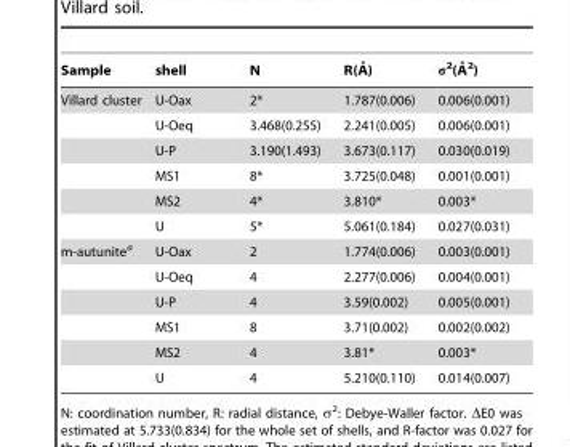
<table><thead><tr><td>Sample</td><td>shell</td><td>N</td><td>R(A˚ )</td><td>s2(A˚ 2)</td></tr></thead><tbody><tr><td rowspan="6">Villard cluster</td><td>U-Oax</td><td>2*</td><td>1.787(0.006)</td><td>0.006(0.001)</td></tr><tr><td>U-Oeq</td><td>3.468(0.255)</td><td>2.241(0.005)</td><td>0.006(0.001)</td></tr><tr><td>U-P</td><td>3.190(1.493)</td><td>3.673(0.117)</td><td>0.030(0.019)</td></tr><tr><td>MS1</td><td>8*</td><td>3.725(0.048)</td><td>0.001(0.001)</td></tr><tr><td>MS2</td><td>4*</td><td>3.810*</td><td>0.003*</td></tr><tr><td>U</td><td>5*</td><td>5.061(0.184)</td><td>0.027(0.031)</td></tr><tr><td rowspan="6">m-autunite<sup>a</sup></td><td>U-Oax</td><td>2</td><td>1.774(0.006)</td><td>0.003(0.001)</td></tr><tr><td>U-Oeq</td><td>4</td><td>2.277(0.006)</td><td>0.004(0.001)</td></tr><tr><td>U-P</td><td>4</td><td>3.59(0.002)</td><td>0.005(0.001)</td></tr><tr><td>MS1</td><td>8</td><td>3.71(0.002)</td><td>0.002(0.002)</td></tr><tr><td>MS2</td><td>4</td><td>3.81*</td><td>0.003*</td></tr><tr><td>U</td><td>4</td><td>5.210(0.110)</td><td>0.014(0.007)</td></tr></tbody></table>